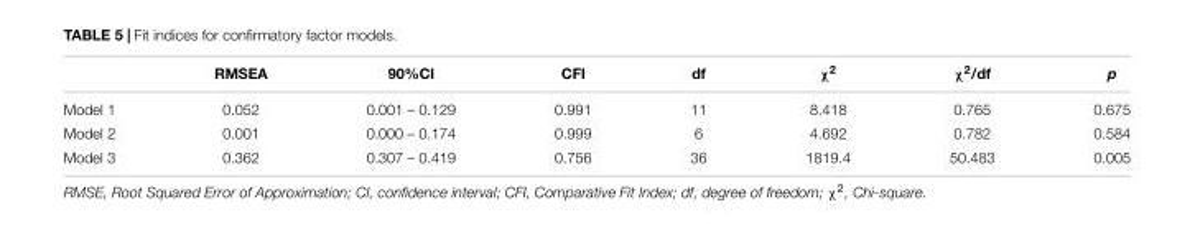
<table><thead><tr><td></td><td>RMSEA</td><td>90%CI</td><td>CFI</td><td>df</td><td>χ<sup>2</sup></td><td>χ<sup>2</sup>/df</td><td>p</td></tr></thead><tbody><tr><td>Model 1</td><td>0.052</td><td>0.001 – 0.129</td><td>0.991</td><td>11</td><td>8.418</td><td>0.765</td><td>0.675</td></tr><tr><td>Model 2</td><td>0.001</td><td>0.000 – 0.174</td><td>0.999</td><td>6</td><td>4.692</td><td>0.782</td><td>0.584</td></tr><tr><td>Model 3</td><td>0.362</td><td>0.307 – 0.419</td><td>0.756</td><td>36</td><td>1819.4</td><td>50.483</td><td>0.005</td></tr></tbody></table>